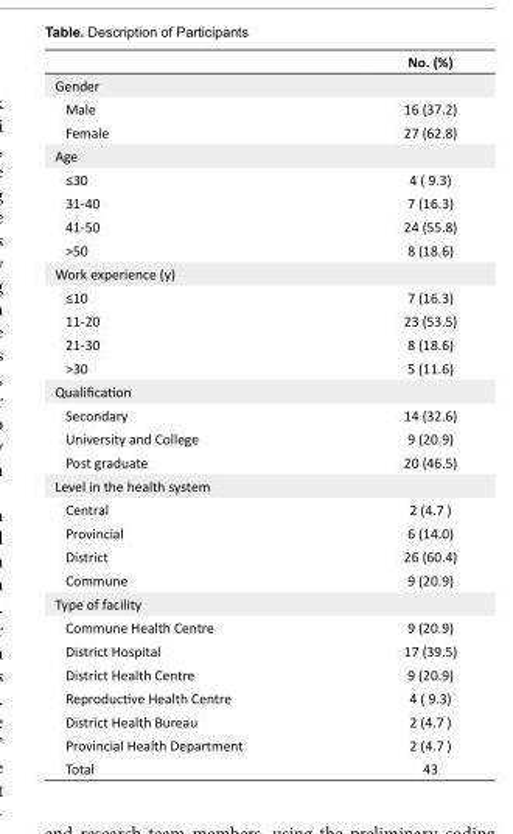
<table><thead><tr><td></td><td>No. (%)</td></tr></thead><tbody><tr><td colspan="2">Gender</td></tr><tr><td>Male</td><td>16 (37.2)</td></tr><tr><td>Female</td><td>27 (62.8)</td></tr><tr><td colspan="2">Age</td></tr><tr><td>≤30</td><td>4 ( 9.3)</td></tr><tr><td>31-40</td><td>7 (16.3)</td></tr><tr><td>41-50</td><td>24 (55.8)</td></tr><tr><td>&gt;50</td><td>8 (18.6)</td></tr><tr><td colspan="2">Work experience (y)</td></tr><tr><td>≤10</td><td>7 (16.3)</td></tr><tr><td>11-20</td><td>23 (53.5)</td></tr><tr><td>21-30</td><td>8 (18.6)</td></tr><tr><td>&gt;30</td><td>5 (11.6)</td></tr><tr><td colspan="2">Qualification</td></tr><tr><td>Secondary</td><td>14 (32.6)</td></tr><tr><td>University and College</td><td>9 (20.9)</td></tr><tr><td>Post graduate</td><td>20 (46.5)</td></tr><tr><td colspan="2">Level in the health system</td></tr><tr><td>Central</td><td>2 (4.7 )</td></tr><tr><td>Provincial</td><td>6 (14.0)</td></tr><tr><td>District</td><td>26 (60.4)</td></tr><tr><td>Commune</td><td>9 (20.9)</td></tr><tr><td colspan="2">Type of facility</td></tr><tr><td>Commune Health Centre</td><td>9 (20.9)</td></tr><tr><td>District Hospital</td><td>17 (39.5)</td></tr><tr><td>District Health Centre</td><td>9 (20.9)</td></tr><tr><td>Reproductive Health Centre</td><td>4 ( 9.3)</td></tr><tr><td>District Health Bureau</td><td>2 (4.7 )</td></tr><tr><td>Provincial Health Department</td><td>2 (4.7 )</td></tr><tr><td>Total</td><td>43</td></tr></tbody></table>